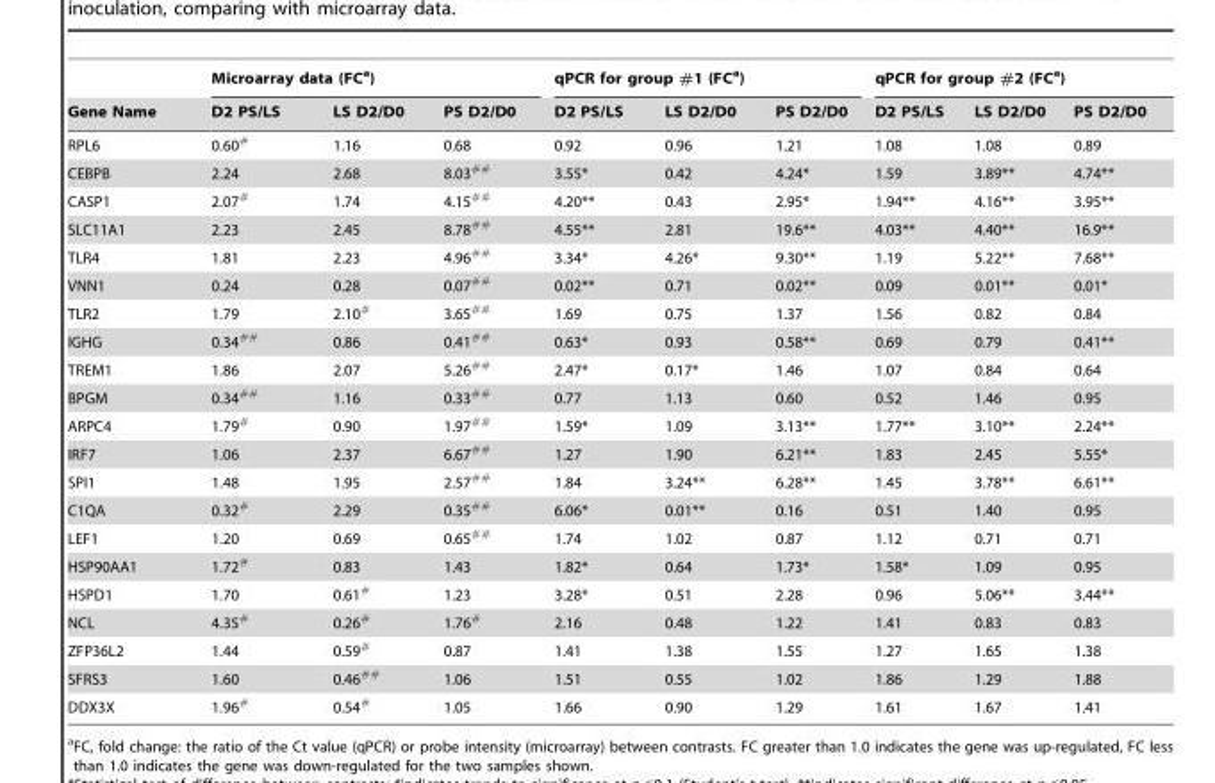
<table><thead><tr><td rowspan="2">Gene Name</td><td colspan="3">Microarray data (FC<sup>a</sup>)</td><td colspan="3">qPCR for group #1 (FC<sup>a</sup>)</td><td colspan="3">qPCR for group #2 (FC<sup>a</sup>)</td></tr><tr><td>D2 PS/LS</td><td>LS D2/D0</td><td>PS D2/D0</td><td>D2 PS/LS</td><td>LS D2/D0</td><td>PS D2/D0</td><td>D2 PS/LS</td><td>LS D2/D0</td><td>PS D2/D0</td></tr></thead><tbody><tr><td>RPL6</td><td>0.60#</td><td>1.16</td><td>0.68</td><td>0.92</td><td>0.96</td><td>1.21</td><td>1.08</td><td>1.08</td><td>0.89</td></tr><tr><td>CEBPB</td><td>2.24</td><td>2.68</td><td>8.03##</td><td>3.55*</td><td>0.42</td><td>4.24*</td><td>1.59</td><td>3.89**</td><td>4.74**</td></tr><tr><td>CASP1</td><td>2.07#</td><td>1.74</td><td>4.15##</td><td>4.20**</td><td>0.43</td><td>2.95*</td><td>1.94**</td><td>4.16**</td><td>3.95**</td></tr><tr><td>SLC11A1</td><td>2.23</td><td>2.45</td><td>8.78##</td><td>4.55**</td><td>2.81</td><td>19.6**</td><td>4.03**</td><td>4.40**</td><td>16.9**</td></tr><tr><td>TLR4</td><td>1.81</td><td>2.23</td><td>4.96##</td><td>3.34*</td><td>4.26*</td><td>9.30**</td><td>1.19</td><td>5.22**</td><td>7.68**</td></tr><tr><td>VNN1</td><td>0.24</td><td>0.28</td><td>0.07##</td><td>0.02**</td><td>0.71</td><td>0.02**</td><td>0.09</td><td>0.01**</td><td>0.01*</td></tr><tr><td>TLR2</td><td>1.79</td><td>2.10#</td><td>3.65##</td><td>1.69</td><td>0.75</td><td>1.37</td><td>1.56</td><td>0.82</td><td>0.84</td></tr><tr><td>IGHG</td><td>0.34##</td><td>0.86</td><td>0.41##</td><td>0.63*</td><td>0.93</td><td>0.58**</td><td>0.69</td><td>0.79</td><td>0.41**</td></tr><tr><td>TREM1</td><td>1.86</td><td>2.07</td><td>5.26##</td><td>2.47*</td><td>0.17*</td><td>1.46</td><td>1.07</td><td>0.84</td><td>0.64</td></tr><tr><td>BPGM</td><td>0.34##</td><td>1.16</td><td>0.33##</td><td>0.77</td><td>1.13</td><td>0.60</td><td>0.52</td><td>1.46</td><td>0.95</td></tr><tr><td>ARPC4</td><td>1.79#</td><td>0.90</td><td>1.97##</td><td>1.59*</td><td>1.09</td><td>3.13**</td><td>1.77**</td><td>3.10**</td><td>2.24**</td></tr><tr><td>IRF7</td><td>1.06</td><td>2.37</td><td>6.67##</td><td>1.27</td><td>1.90</td><td>6.21**</td><td>1.83</td><td>2.45</td><td>5.55*</td></tr><tr><td>SPI1</td><td>1.48</td><td>1.95</td><td>2.57##</td><td>1.84</td><td>3.24**</td><td>6.28**</td><td>1.45</td><td>3.78**</td><td>6.61**</td></tr><tr><td>C1QA</td><td>0.32#</td><td>2.29</td><td>0.35##</td><td>6.06*</td><td>0.01**</td><td>0.16</td><td>0.51</td><td>1.40</td><td>0.95</td></tr><tr><td>LEF1</td><td>1.20</td><td>0.69</td><td>0.65##</td><td>1.74</td><td>1.02</td><td>0.87</td><td>1.12</td><td>0.71</td><td>0.71</td></tr><tr><td>HSP90AA1</td><td>1.72#</td><td>0.83</td><td>1.43</td><td>1.82*</td><td>0.64</td><td>1.73*</td><td>1.58*</td><td>1.09</td><td>0.95</td></tr><tr><td>HSPD1</td><td>1.70</td><td>0.61#</td><td>1.23</td><td>3.28*</td><td>0.51</td><td>2.28</td><td>0.96</td><td>5.06**</td><td>3.44**</td></tr><tr><td>NCL</td><td>4.35#</td><td>0.26#</td><td>1.76#</td><td>2.16</td><td>0.48</td><td>1.22</td><td>1.41</td><td>0.83</td><td>0.83</td></tr><tr><td>ZFP36L2</td><td>1.44</td><td>0.59#</td><td>0.87</td><td>1.41</td><td>1.38</td><td>1.55</td><td>1.27</td><td>1.65</td><td>1.38</td></tr><tr><td>SFRS3</td><td>1.60</td><td>0.46##</td><td>1.06</td><td>1.51</td><td>0.55</td><td>1.02</td><td>1.86</td><td>1.29</td><td>1.88</td></tr><tr><td>DDX3X</td><td>1.96#</td><td>0.54#</td><td>1.05</td><td>1.66</td><td>0.90</td><td>1.29</td><td>1.61</td><td>1.67</td><td>1.41</td></tr></tbody></table>